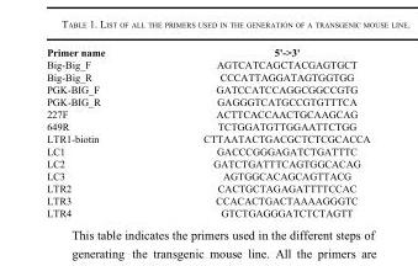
<table><tbody><tr><td>Primer name</td><td>5&#x27;-&gt;3&#x27;</td></tr><tr><td>Big-Big_F</td><td>AGTCATCAGCTACGAGTGCT</td></tr><tr><td>Big-Big_R</td><td>CCCATTAGGATAGTGGTGG</td></tr><tr><td>PGK-BIG_F</td><td>GATCCATCCAGGCGGCCGTG</td></tr><tr><td>PGK-BIG_R</td><td>GAGGGTCATGCCGTGTTTCA</td></tr><tr><td>227F</td><td>ACTTCACCAACTGCAAGCAG</td></tr><tr><td>649R</td><td>TCTGGATGTTGGAATTCTGG</td></tr><tr><td>LTR1-biotin</td><td>CTTAATACTGACGCTCTCGCACCA</td></tr><tr><td>LC1</td><td>GACCCGGGAGATCTGATTTC</td></tr><tr><td>LC2</td><td>GATCTGATTTCAGTGGCACAG</td></tr><tr><td>LC3</td><td>AGTGGCACAGCAGTTACG</td></tr><tr><td>LTR2</td><td>CACTGCTAGAGATTTTCCAC</td></tr><tr><td>LTR3</td><td>CCACACTGACTAAAAGGGTC</td></tr><tr><td>LTR4</td><td>GTCTGAGGGATCTCTAGTT</td></tr></tbody></table>